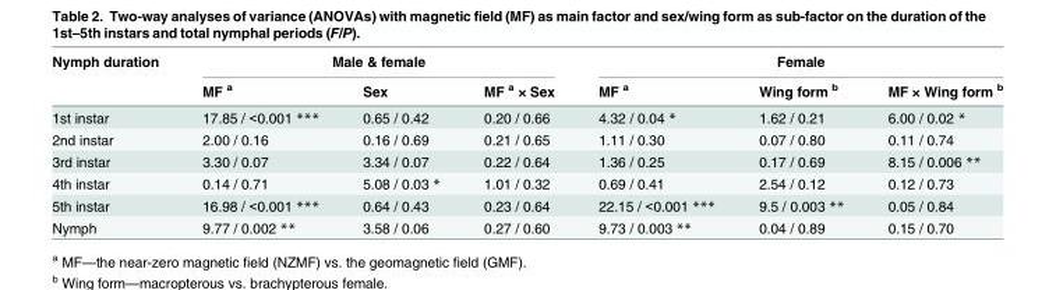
<table><thead><tr><td rowspan="2">Nymph duration</td><td colspan="3">Male &amp; female</td><td colspan="3">Female</td></tr><tr><td>MF <sup>a</sup></td><td>Sex</td><td>MF <sup>a</sup> × Sex</td><td>MF <sup>a</sup></td><td>Wing form <sup>b</sup></td><td>MF × Wing form <sup>b</sup></td></tr></thead><tbody><tr><td>1st instar</td><td>17.85 / &lt;0.001 ***</td><td>0.65 / 0.42</td><td>0.20 / 0.66</td><td>4.32 / 0.04 *</td><td>1.62 / 0.21</td><td>6.00 / 0.02 *</td></tr><tr><td>2nd instar</td><td>2.00 / 0.16</td><td>0.16 / 0.69</td><td>0.21 / 0.65</td><td>1.11 / 0.30</td><td>0.07 / 0.80</td><td>0.11 / 0.74</td></tr><tr><td>3rd instar</td><td>3.30 / 0.07</td><td>3.34 / 0.07</td><td>0.22 / 0.64</td><td>1.36 / 0.25</td><td>0.17 / 0.69</td><td>8.15 / 0.006 **</td></tr><tr><td>4th instar</td><td>0.14 / 0.71</td><td>5.08 / 0.03 *</td><td>1.01 / 0.32</td><td>0.69 / 0.41</td><td>2.54 / 0.12</td><td>0.12 / 0.73</td></tr><tr><td>5th instar</td><td>16.98 / &lt;0.001 ***</td><td>0.64 / 0.43</td><td>0.23 / 0.64</td><td>22.15 / &lt;0.001 ***</td><td>9.5 / 0.003 **</td><td>0.05 / 0.84</td></tr><tr><td>Nymph</td><td>9.77 / 0.002 **</td><td>3.58 / 0.06</td><td>0.27 / 0.60</td><td>9.73 / 0.003 **</td><td>0.04 / 0.89</td><td>0.15 / 0.70</td></tr></tbody></table>